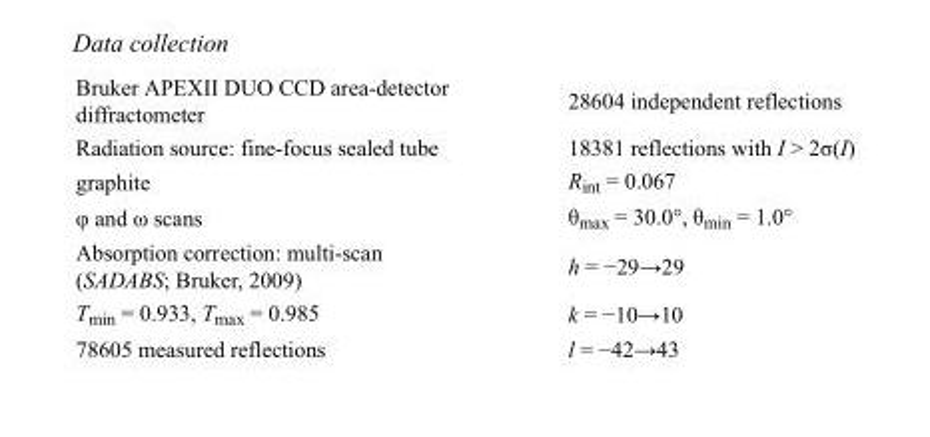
<table><tbody><tr><td>Bruker APEXII DUO CCD area-detector diffractometer</td><td>28604 independent reflections</td></tr><tr><td>Radiation source: fine-focus sealed tube</td><td>18381 reflections with I &gt; 2σ(I)</td></tr><tr><td>graphite</td><td>R<sub>int</sub> = 0.067</td></tr><tr><td>φ and ω scans</td><td>θ<sub>max</sub> = 30.0°, θ<sub>min</sub> = 1.0°</td></tr><tr><td>Absorption correction: multi-scan (SADABS; Bruker, 2009)</td><td>h = −29→29</td></tr><tr><td>T<sub>min</sub> = 0.933, T<sub>max</sub> = 0.985</td><td>k = −10→10</td></tr><tr><td>78605 measured reflections</td><td>l = −42→43</td></tr></tbody></table>